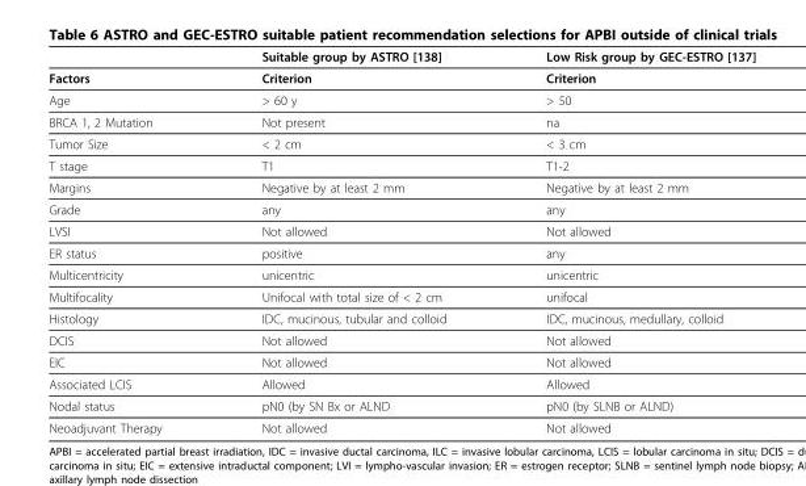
<table><thead><tr><td></td><td>Suitable group by ASTRO [138]</td><td>Low Risk group by GEC-ESTRO [137]</td></tr></thead><tbody><tr><td>Factors</td><td>Criterion</td><td>Criterion</td></tr><tr><td>Age</td><td>&gt; 60 y</td><td>&gt; 50</td></tr><tr><td>BRCA 1, 2 Mutation</td><td>Not present</td><td>na</td></tr><tr><td>Tumor Size</td><td>&lt; 2 cm</td><td>&lt; 3 cm</td></tr><tr><td>T stage</td><td>T1</td><td>T1-2</td></tr><tr><td>Margins</td><td>Negative by at least 2 mm</td><td>Negative by at least 2 mm</td></tr><tr><td>Grade</td><td>any</td><td>any</td></tr><tr><td>LVSI</td><td>Not allowed</td><td>Not allowed</td></tr><tr><td>ER status</td><td>positive</td><td>any</td></tr><tr><td>Multicentricity</td><td>unicentric</td><td>unicentric</td></tr><tr><td>Multifocality</td><td>Unifocal with total size of &lt; 2 cm</td><td>unifocal</td></tr><tr><td>Histology</td><td>IDC, mucinous, tubular and colloid</td><td>IDC, mucinous, medullary, colloid</td></tr><tr><td>DCIS</td><td>Not allowed</td><td>Not allowed</td></tr><tr><td>EIC</td><td>Not allowed</td><td>Not allowed</td></tr><tr><td>Associated LCIS</td><td>Allowed</td><td>Allowed</td></tr><tr><td>Nodal status</td><td>pN0 (by SN Bx or ALND</td><td>pN0 (by SLNB or ALND)</td></tr><tr><td>Neoadjuvant Therapy</td><td>Not allowed</td><td>Not allowed</td></tr></tbody></table>